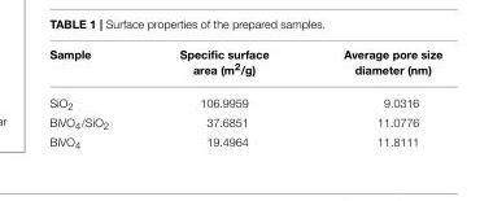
<table><thead><tr><td>Sample</td><td>Specific surface area (m<sup>2</sup>/g)</td><td>Average pore size diameter (nm)</td></tr></thead><tbody><tr><td>SiO<sub>2</sub></td><td>106.9959</td><td>9.0316</td></tr><tr><td>BiVO<sub>4</sub>/SiO<sub>2</sub></td><td>37.6851</td><td>11.0776</td></tr><tr><td>BiVO<sub>4</sub></td><td>19.4964</td><td>11.8111</td></tr></tbody></table>